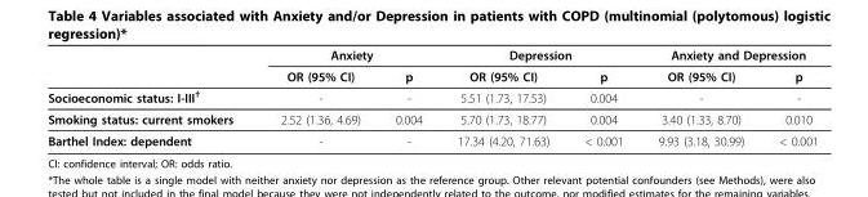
<table><thead><tr><td rowspan="2"></td><td colspan="2">Anxiety</td><td colspan="2">Depression</td><td colspan="2">Anxiety and Depression</td></tr><tr><td>OR (95% CI)</td><td>p</td><td>OR (95% CI)</td><td>p</td><td>OR (95% CI)</td><td>p</td></tr></thead><tbody><tr><td>Socioeconomic status: I-III<sup>†</sup></td><td>-</td><td>-</td><td>5.51 (1.73, 17.53)</td><td>0.004</td><td>-</td><td>-</td></tr><tr><td>Smoking status: current smokers</td><td>2.52 (1.36, 4.69)</td><td>0.004</td><td>5.70 (1.73, 18.77)</td><td>0.004</td><td>3.40 (1.33, 8.70)</td><td>0.010</td></tr><tr><td>Barthel Index: dependent</td><td>-</td><td>-</td><td>17.34 (4.20, 71.63)</td><td>&lt; 0.001</td><td>9.93 (3.18, 30.99)</td><td>&lt; 0.001</td></tr></tbody></table>